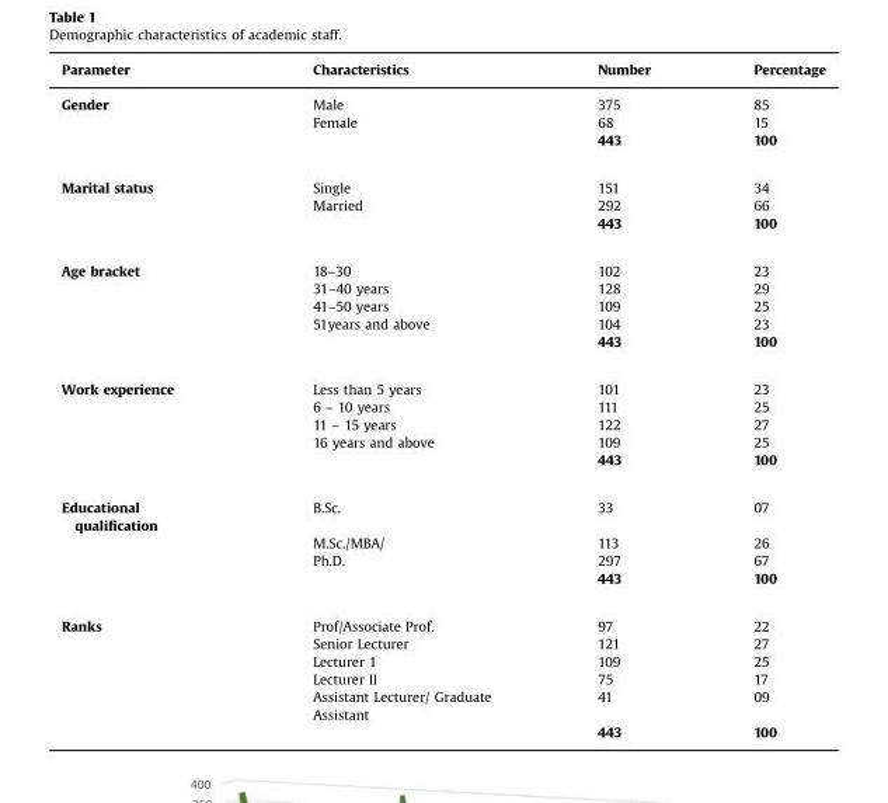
<table><thead><tr><td>Parameter</td><td>Characteristics</td><td>Number</td><td>Percentage</td></tr></thead><tbody><tr><td rowspan="3">Gender</td><td>Male</td><td>375</td><td>85</td></tr><tr><td>Female</td><td>68</td><td>15</td></tr><tr><td></td><td>443</td><td>100</td></tr><tr><td rowspan="3">Marital status</td><td>Single</td><td>151</td><td>34</td></tr><tr><td>Married</td><td>292</td><td>66</td></tr><tr><td></td><td>443</td><td>100</td></tr><tr><td rowspan="5">Age bracket</td><td>18–30</td><td>102</td><td>23</td></tr><tr><td>31–40 years</td><td>128</td><td>29</td></tr><tr><td>41–50 years</td><td>109</td><td>25</td></tr><tr><td>51years and above</td><td>104</td><td>23</td></tr><tr><td></td><td>443</td><td>100</td></tr><tr><td rowspan="5">Work experience</td><td>Less than 5 years</td><td>101</td><td>23</td></tr><tr><td>6 – 10 years</td><td>111</td><td>25</td></tr><tr><td>11 – 15 years</td><td>122</td><td>27</td></tr><tr><td>16 years and above</td><td>109</td><td>25</td></tr><tr><td></td><td>443</td><td>100</td></tr><tr><td rowspan="4">Educational qualification</td><td>B.Sc.</td><td>33</td><td>07</td></tr><tr><td>M.Sc./MBA/</td><td>113</td><td>26</td></tr><tr><td>Ph.D.</td><td>297</td><td>67</td></tr><tr><td></td><td>443</td><td>100</td></tr><tr><td rowspan="6">Ranks</td><td>Prof/Associate Prof.</td><td>97</td><td>22</td></tr><tr><td>Senior Lecturer</td><td>121</td><td>27</td></tr><tr><td>Lecturer 1</td><td>109</td><td>25</td></tr><tr><td>Lecturer II</td><td>75</td><td>17</td></tr><tr><td>Assistant Lecturer/ Graduate Assistant</td><td>41</td><td>09</td></tr><tr><td></td><td>443</td><td>100</td></tr></tbody></table>